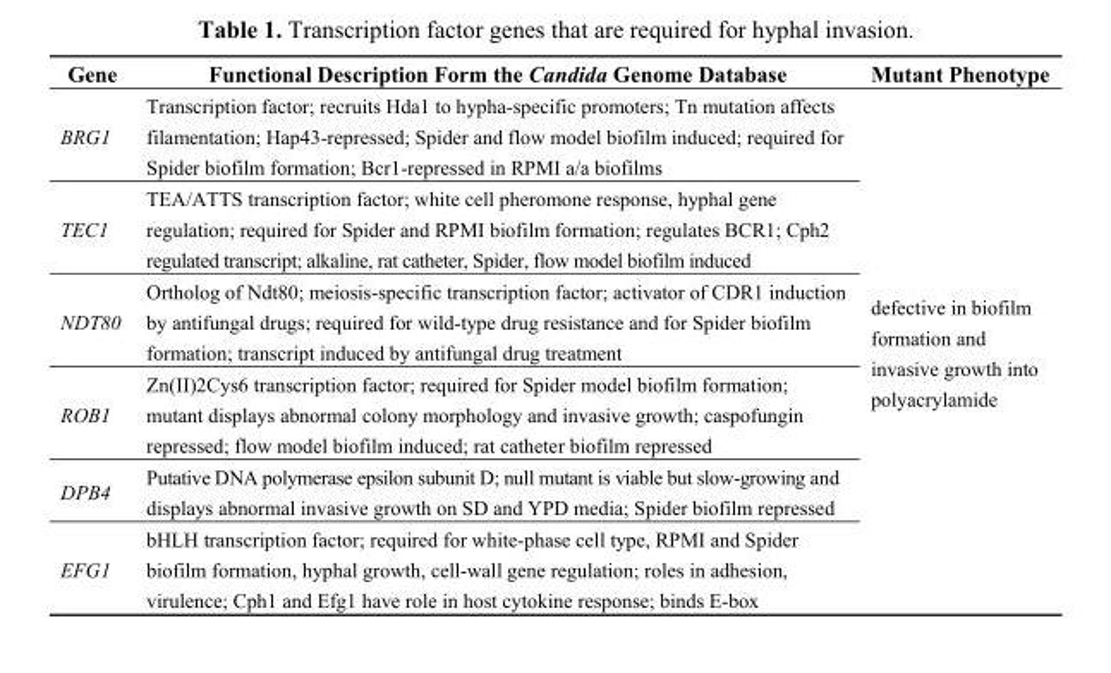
<table><thead><tr><td>Gene</td><td>Functional Description Form the Candida Genome Database</td><td>Mutant Phenotype</td></tr></thead><tbody><tr><td>BRG1</td><td>Transcription factor; recruits Hda1 to hypha-specific promoters; Tn mutation affects filamentation; Hap43-repressed; Spider and flow model biofilm induced; required for Spider biofilm formation; Bcr1-repressed in RPMI a/a biofilms</td><td rowspan="6">defective in biofilm formation and invasive growth into polyacrylamide</td></tr><tr><td>TEC1</td><td>TEA/ATTS transcription factor; white cell pheromone response, hyphal gene regulation; required for Spider and RPMI biofilm formation; regulates BCR1; Cph2 regulated transcript; alkaline, rat catheter, Spider, flow model biofilm induced</td></tr><tr><td>NDT80</td><td>Ortholog of Ndt80; meiosis-specific transcription factor; activator of CDR1 induction by antifungal drugs; required for wild-type drug resistance and for Spider biofilm formation; transcript induced by antifungal drug treatment</td></tr><tr><td>ROB1</td><td>Zn(II)2Cys6 transcription factor; required for Spider model biofilm formation; mutant displays abnormal colony morphology and invasive growth; caspofungin repressed; flow model biofilm induced; rat catheter biofilm repressed</td></tr><tr><td>DPB4</td><td>Putative DNA polymerase epsilon subunit D; null mutant is viable but slow-growing and displays abnormal invasive growth on SD and YPD media; Spider biofilm repressed</td></tr><tr><td>EFG1</td><td>bHLH transcription factor; required for white-phase cell type, RPMI and Spider biofilm formation, hyphal growth, cell-wall gene regulation; roles in adhesion, virulence; Cph1 and Efg1 have role in host cytokine response; binds E-box</td></tr></tbody></table>